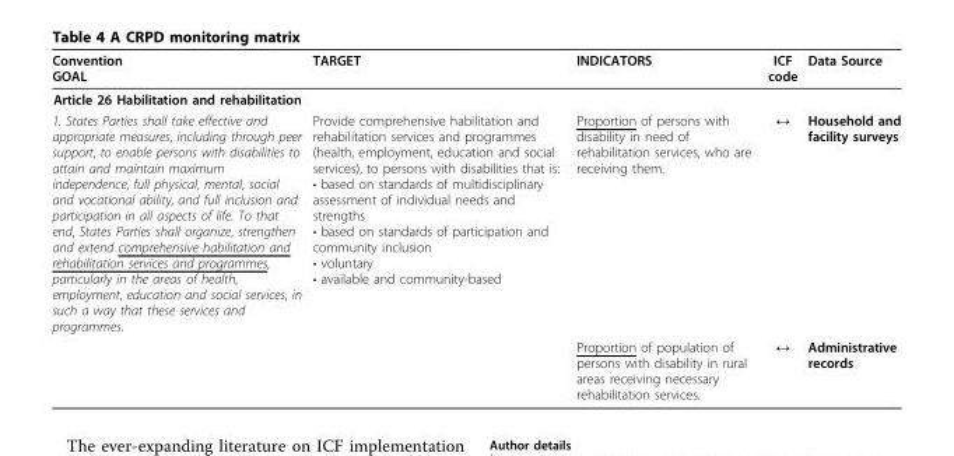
<table><thead><tr><td>Convention GOAL</td><td>TARGET</td><td>INDICATORS</td><td>ICF code</td><td>Data Source</td></tr></thead><tbody><tr><td colspan="5">Article 26 Habilitation and rehabilitation</td></tr><tr><td rowspan="2">1. States Parties shall take effective and appropriate measures, including through peer support, to enable persons with disabilities to attain and maintain maximum independence, full physical, mental, social and vocational ability, and full inclusion and participation in all aspects of life. To that end, States Parties shall organize, strengthen and extend comprehensive habilitation and rehabilitation services and programmes, particularly in the areas of health, employment, education and social services, in such a way that these services and programmes.</td><td>Provide comprehensive habilitation and rehabilitation services and programmes (health, employment, education and social services), to persons with disabilities that is: • based on standards of multidisciplinary assessment of individual needs and strengths • based on standards of participation and community inclusion • voluntary • available and community-based</td><td>Proportion of persons with disability in need of rehabilitation services, who are receiving them.</td><td>↔</td><td>Household and facility surveys</td></tr><tr><td></td><td>Proportion of population of persons with disability in rural areas receiving necessary rehabilitation services.</td><td>↔</td><td>Administrative records</td></tr></tbody></table>